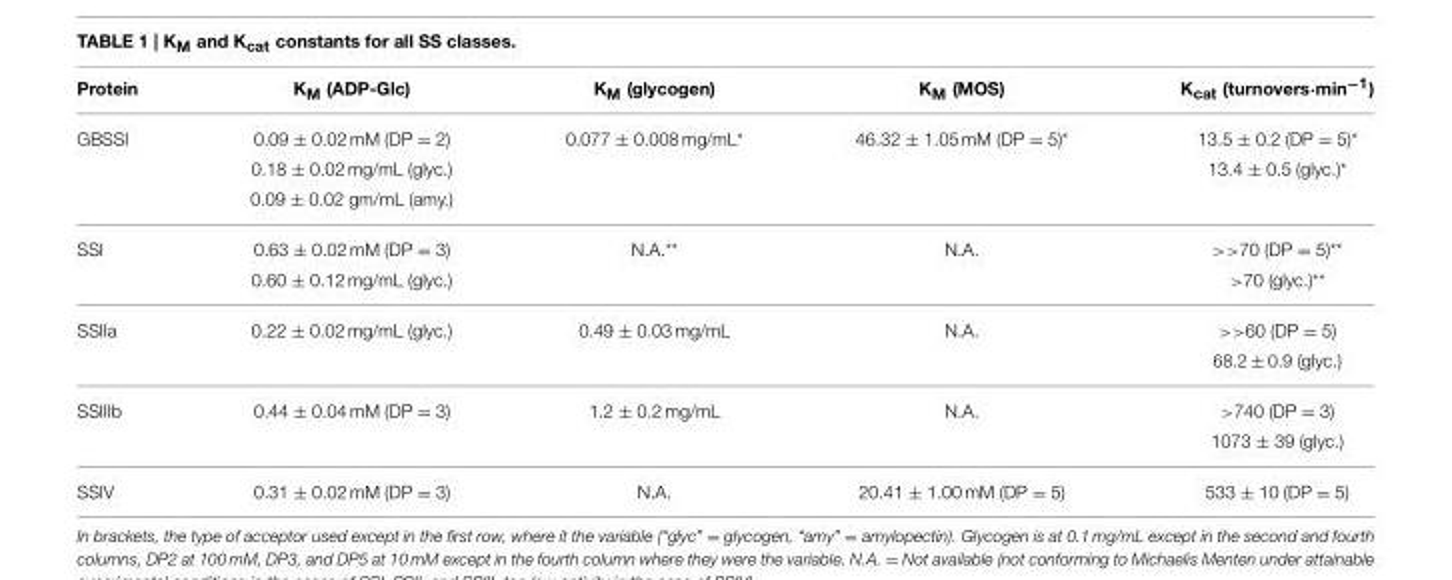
<table><thead><tr><td>Protein</td><td>K<sub>M</sub> (ADP-Glc)</td><td>K<sub>M</sub> (glycogen)</td><td>K<sub>M</sub> (MOS)</td><td>K<sub>cat</sub> (turnovers·min<sup>−1</sup>)</td></tr></thead><tbody><tr><td rowspan="3">GBSSI</td><td>0.09 ± 0.02 mM (DP = 2)</td><td>0.077 ± 0.008 mg/mL*</td><td>46.32 ± 1.05 mM (DP = 5)*</td><td>13.5 ± 0.2 (DP = 5)*</td></tr><tr><td>0.18 ± 0.02 mg/mL (glyc.)</td><td></td><td></td><td>13.4 ± 0.5 (glyc.)*</td></tr><tr><td>0.09 ± 0.02 gm/mL (amy.)</td><td></td><td></td><td></td></tr><tr><td rowspan="2">SSI</td><td>0.63 ± 0.02 mM (DP = 3)</td><td>N.A.**</td><td>N.A.</td><td>&gt;&gt;70 (DP = 5)**</td></tr><tr><td>0.60 ± 0.12 mg/mL (glyc.)</td><td></td><td></td><td>&gt;70 (glyc.)**</td></tr><tr><td rowspan="2">SSIIa</td><td>0.22 ± 0.02 mg/mL (glyc.)</td><td>0.49 ± 0.03 mg/mL</td><td>N.A.</td><td>&gt;&gt;60 (DP = 5)</td></tr><tr><td></td><td></td><td></td><td>68.2 ± 0.9 (glyc.)</td></tr><tr><td rowspan="2">SSIIIb</td><td>0.44 ± 0.04 mM (DP = 3)</td><td>1.2 ± 0.2 mg/mL</td><td>N.A.</td><td>&gt;740 (DP = 3)</td></tr><tr><td></td><td></td><td></td><td>1073 ± 39 (glyc.)</td></tr><tr><td>SSIV</td><td>0.31 ± 0.02 mM (DP = 3)</td><td>N.A.</td><td>20.41 ± 1.00 mM (DP = 5)</td><td>533 ± 10 (DP = 5)</td></tr></tbody></table>